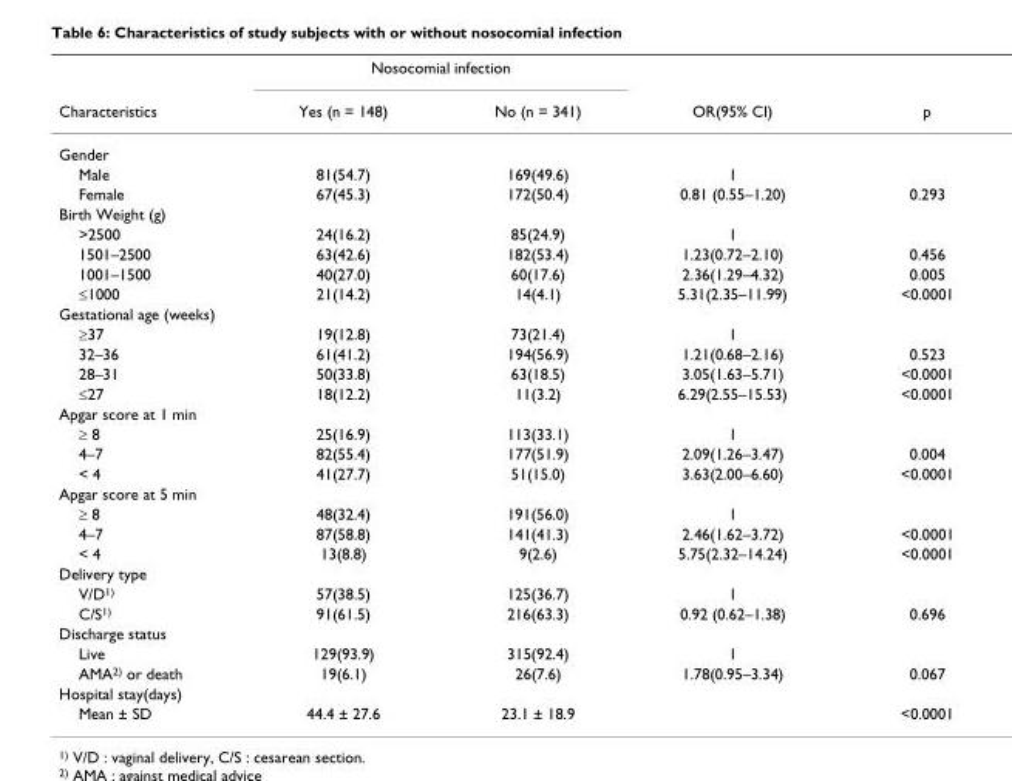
<table><thead><tr><td rowspan="2">Characteristics</td><td colspan="2">Nosocomial infection</td><td rowspan="2">OR(95% CI)</td><td rowspan="2">p</td></tr><tr><td>Yes (n = 148)</td><td>No (n = 341)</td></tr></thead><tbody><tr><td colspan="5">Gender</td></tr><tr><td>Male</td><td>81(54.7)</td><td>169(49.6)</td><td>1</td><td></td></tr><tr><td>Female</td><td>67(45.3)</td><td>172(50.4)</td><td>0.81 (0.55–1.20)</td><td>0.293</td></tr><tr><td colspan="5">Birth Weight (g)</td></tr><tr><td>&gt;2500</td><td>24(16.2)</td><td>85(24.9)</td><td>1</td><td></td></tr><tr><td>1501–2500</td><td>63(42.6)</td><td>182(53.4)</td><td>1.23(0.72–2.10)</td><td>0.456</td></tr><tr><td>1001–1500</td><td>40(27.0)</td><td>60(17.6)</td><td>2.36(1.29–4.32)</td><td>0.005</td></tr><tr><td>≤1000</td><td>21(14.2)</td><td>14(4.1)</td><td>5.31(2.35–11.99)</td><td>&lt;0.0001</td></tr><tr><td colspan="5">Gestational age (weeks)</td></tr><tr><td>≥37</td><td>19(12.8)</td><td>73(21.4)</td><td>1</td><td></td></tr><tr><td>32–36</td><td>61(41.2)</td><td>194(56.9)</td><td>1.21(0.68–2.16)</td><td>0.523</td></tr><tr><td>28–31</td><td>50(33.8)</td><td>63(18.5)</td><td>3.05(1.63–5.71)</td><td>&lt;0.0001</td></tr><tr><td>≤27</td><td>18(12.2)</td><td>11(3.2)</td><td>6.29(2.55–15.53)</td><td>&lt;0.0001</td></tr><tr><td colspan="5">Apgar score at 1 min</td></tr><tr><td>≥ 8</td><td>25(16.9)</td><td>113(33.1)</td><td>1</td><td></td></tr><tr><td>4–7</td><td>82(55.4)</td><td>177(51.9)</td><td>2.09(1.26–3.47)</td><td>0.004</td></tr><tr><td>&lt; 4</td><td>41(27.7)</td><td>51(15.0)</td><td>3.63(2.00–6.60)</td><td>&lt;0.0001</td></tr><tr><td colspan="5">Apgar score at 5 min</td></tr><tr><td>≥ 8</td><td>48(32.4)</td><td>191(56.0)</td><td>1</td><td></td></tr><tr><td>4–7</td><td>87(58.8)</td><td>141(41.3)</td><td>2.46(1.62–3.72)</td><td>&lt;0.0001</td></tr><tr><td>&lt; 4</td><td>13(8.8)</td><td>9(2.6)</td><td>5.75(2.32–14.24)</td><td>&lt;0.0001</td></tr><tr><td colspan="5">Delivery type</td></tr><tr><td>V/D<sup>1)</sup></td><td>57(38.5)</td><td>125(36.7)</td><td>1</td><td></td></tr><tr><td>C/S<sup>1)</sup></td><td>91(61.5)</td><td>216(63.3)</td><td>0.92 (0.62–1.38)</td><td>0.696</td></tr><tr><td colspan="5">Discharge status</td></tr><tr><td>Live</td><td>129(93.9)</td><td>315(92.4)</td><td>1</td><td></td></tr><tr><td>AMA<sup>2)</sup> or death</td><td>19(6.1)</td><td>26(7.6)</td><td>1.78(0.95–3.34)</td><td>0.067</td></tr><tr><td colspan="5">Hospital stay(days)</td></tr><tr><td>Mean ± SD</td><td>44.4 ± 27.6</td><td>23.1 ± 18.9</td><td></td><td>&lt;0.0001</td></tr></tbody></table>